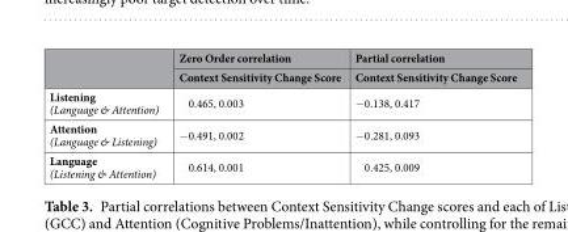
<table><thead><tr><td rowspan="2"></td><td rowspan="2">Zero Order correlation Context Sensitivity Change Score</td><td rowspan="2">Partial correlation Context Sensitivity Change Score</td></tr><tr></tr></thead><tbody><tr><td>Listening (Language &amp; Attention)</td><td>0.465, 0.003</td><td>−0.138, 0.417</td></tr><tr><td>Attention (Language &amp; Listening)</td><td>−0.491, 0.002</td><td>−0.281, 0.093</td></tr><tr><td>Language (Listening &amp; Attention)</td><td>0.614, 0.001</td><td>0.425, 0.009</td></tr></tbody></table>